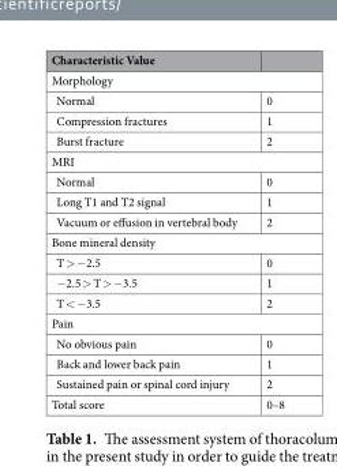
<table><thead><tr><td>Characteristic Value</td><td></td></tr></thead><tbody><tr><td colspan="2">Morphology</td></tr><tr><td>Normal</td><td>0</td></tr><tr><td>Compression fractures</td><td>1</td></tr><tr><td>Burst fracture</td><td>2</td></tr><tr><td colspan="2">MRI</td></tr><tr><td>Normal</td><td>0</td></tr><tr><td>Long T1 and T2 signal</td><td>1</td></tr><tr><td>Vacuum or effusion in vertebral body</td><td>2</td></tr><tr><td colspan="2">Bone mineral density</td></tr><tr><td>T &gt; −2.5</td><td>0</td></tr><tr><td>−2.5 &gt; T &gt; −3.5</td><td>1</td></tr><tr><td>T &lt; −3.5</td><td>2</td></tr><tr><td colspan="2">Pain</td></tr><tr><td>No obvious pain</td><td>0</td></tr><tr><td>Back and lower back pain</td><td>1</td></tr><tr><td>Sustained pain or spinal cord injury</td><td>2</td></tr><tr><td>Total score</td><td>0–8</td></tr></tbody></table>